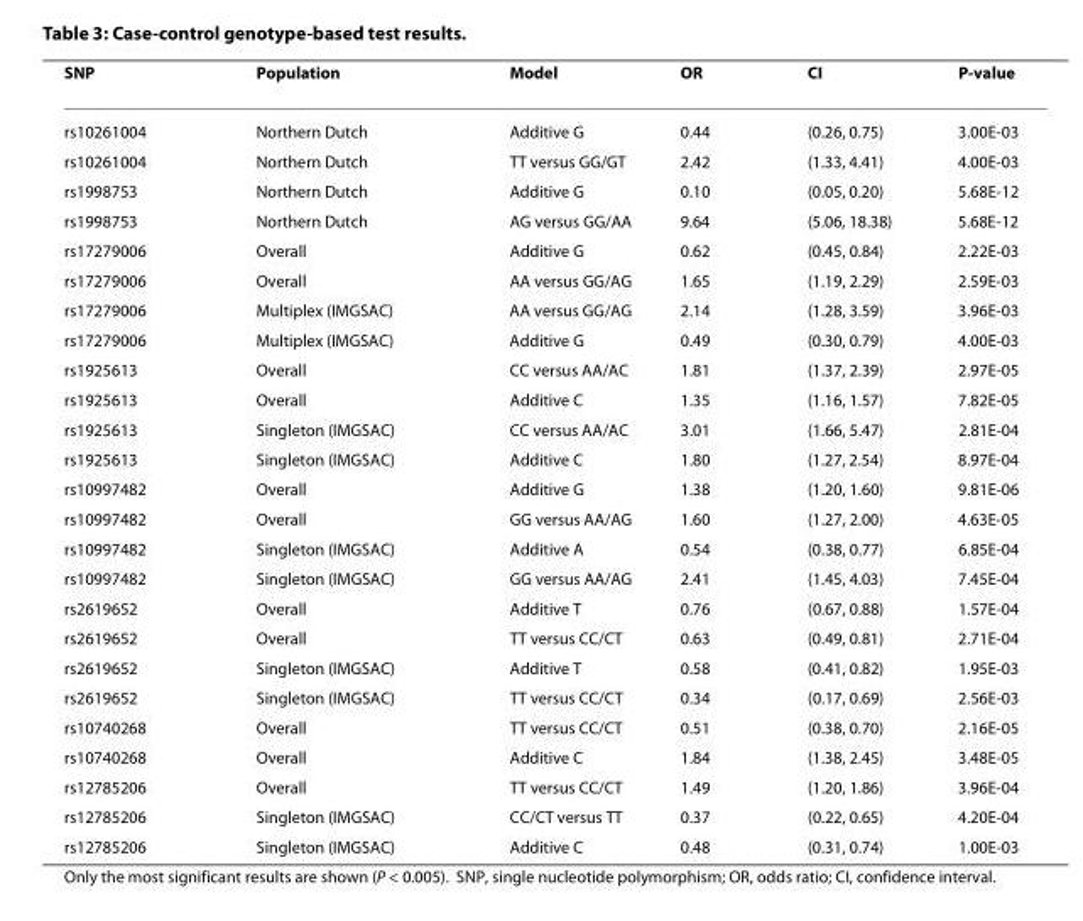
<table><thead><tr><td>SNP</td><td>Population</td><td>Model</td><td>OR</td><td>CI</td><td>P-value</td></tr></thead><tbody><tr><td>rs10261004</td><td>Northern Dutch</td><td>Additive G</td><td>0.44</td><td>(0.26, 0.75)</td><td>3.00E-03</td></tr><tr><td>rs10261004</td><td>Northern Dutch</td><td>TT versus GG/GT</td><td>2.42</td><td>(1.33, 4.41)</td><td>4.00E-03</td></tr><tr><td>rs1998753</td><td>Northern Dutch</td><td>Additive G</td><td>0.10</td><td>(0.05, 0.20)</td><td>5.68E-12</td></tr><tr><td>rs1998753</td><td>Northern Dutch</td><td>AG versus GG/AA</td><td>9.64</td><td>(5.06, 18.38)</td><td>5.68E-12</td></tr><tr><td>rs17279006</td><td>Overall</td><td>Additive G</td><td>0.62</td><td>(0.45, 0.84)</td><td>2.22E-03</td></tr><tr><td>rs17279006</td><td>Overall</td><td>AA versus GG/AG</td><td>1.65</td><td>(1.19, 2.29)</td><td>2.59E-03</td></tr><tr><td>rs17279006</td><td>Multiplex (IMGSAC)</td><td>AA versus GG/AG</td><td>2.14</td><td>(1.28, 3.59)</td><td>3.96E-03</td></tr><tr><td>rs17279006</td><td>Multiplex (IMGSAC)</td><td>Additive G</td><td>0.49</td><td>(0.30, 0.79)</td><td>4.00E-03</td></tr><tr><td>rs1925613</td><td>Overall</td><td>CC versus AA/AC</td><td>1.81</td><td>(1.37, 2.39)</td><td>2.97E-05</td></tr><tr><td>rs1925613</td><td>Overall</td><td>Additive C</td><td>1.35</td><td>(1.16, 1.57)</td><td>7.82E-05</td></tr><tr><td>rs1925613</td><td>Singleton (IMGSAC)</td><td>CC versus AA/AC</td><td>3.01</td><td>(1.66, 5.47)</td><td>2.81E-04</td></tr><tr><td>rs1925613</td><td>Singleton (IMGSAC)</td><td>Additive C</td><td>1.80</td><td>(1.27, 2.54)</td><td>8.97E-04</td></tr><tr><td>rs10997482</td><td>Overall</td><td>Additive G</td><td>1.38</td><td>(1.20, 1.60)</td><td>9.81E-06</td></tr><tr><td>rs10997482</td><td>Overall</td><td>GG versus AA/AG</td><td>1.60</td><td>(1.27, 2.00)</td><td>4.63E-05</td></tr><tr><td>rs10997482</td><td>Singleton (IMGSAC)</td><td>Additive A</td><td>0.54</td><td>(0.38, 0.77)</td><td>6.85E-04</td></tr><tr><td>rs10997482</td><td>Singleton (IMGSAC)</td><td>GG versus AA/AG</td><td>2.41</td><td>(1.45, 4.03)</td><td>7.45E-04</td></tr><tr><td>rs2619652</td><td>Overall</td><td>Additive T</td><td>0.76</td><td>(0.67, 0.88)</td><td>1.57E-04</td></tr><tr><td>rs2619652</td><td>Overall</td><td>TT versus CC/CT</td><td>0.63</td><td>(0.49, 0.81)</td><td>2.71E-04</td></tr><tr><td>rs2619652</td><td>Singleton (IMGSAC)</td><td>Additive T</td><td>0.58</td><td>(0.41, 0.82)</td><td>1.95E-03</td></tr><tr><td>rs2619652</td><td>Singleton (IMGSAC)</td><td>TT versus CC/CT</td><td>0.34</td><td>(0.17, 0.69)</td><td>2.56E-03</td></tr><tr><td>rs10740268</td><td>Overall</td><td>TT versus CC/CT</td><td>0.51</td><td>(0.38, 0.70)</td><td>2.16E-05</td></tr><tr><td>rs10740268</td><td>Overall</td><td>Additive C</td><td>1.84</td><td>(1.38, 2.45)</td><td>3.48E-05</td></tr><tr><td>rs12785206</td><td>Overall</td><td>TT versus CC/CT</td><td>1.49</td><td>(1.20, 1.86)</td><td>3.96E-04</td></tr><tr><td>rs12785206</td><td>Singleton (IMGSAC)</td><td>CC/CT versus TT</td><td>0.37</td><td>(0.22, 0.65)</td><td>4.20E-04</td></tr><tr><td>rs12785206</td><td>Singleton (IMGSAC)</td><td>Additive C</td><td>0.48</td><td>(0.31, 0.74)</td><td>1.00E-03</td></tr></tbody></table>